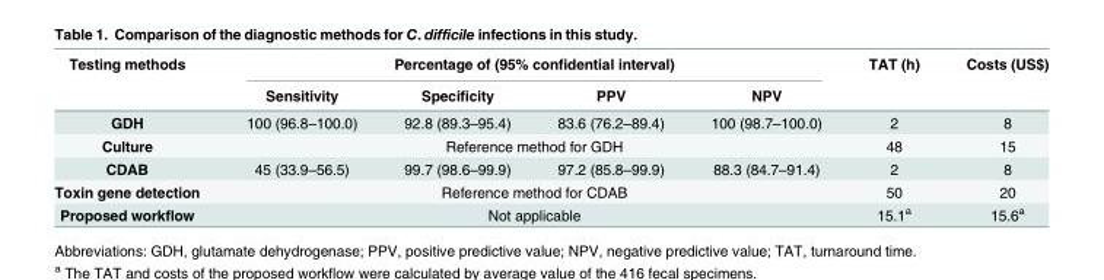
<table><thead><tr><td rowspan="2">Testing methods</td><td colspan="4">Percentage of (95% confidential interval)</td><td rowspan="2">TAT (h)</td><td rowspan="2">Costs (US$)</td></tr><tr><td>Sensitivity</td><td>Specificity</td><td>PPV</td><td>NPV</td></tr></thead><tbody><tr><td>GDH</td><td>100 (96.8–100.0)</td><td>92.8 (89.3–95.4)</td><td>83.6 (76.2–89.4)</td><td>100 (98.7–100.0)</td><td>2</td><td>8</td></tr><tr><td>Culture</td><td colspan="4">Reference method for GDH</td><td>48</td><td>15</td></tr><tr><td>CDAB</td><td>45 (33.9–56.5)</td><td>99.7 (98.6–99.9)</td><td>97.2 (85.8–99.9)</td><td>88.3 (84.7–91.4)</td><td>2</td><td>8</td></tr><tr><td>Toxin gene detection</td><td colspan="4">Reference method for CDAB</td><td>50</td><td>20</td></tr><tr><td>Proposed workflow</td><td colspan="4">Not applicable</td><td>15.1<sup>a</sup></td><td>15.6<sup>a</sup></td></tr></tbody></table>